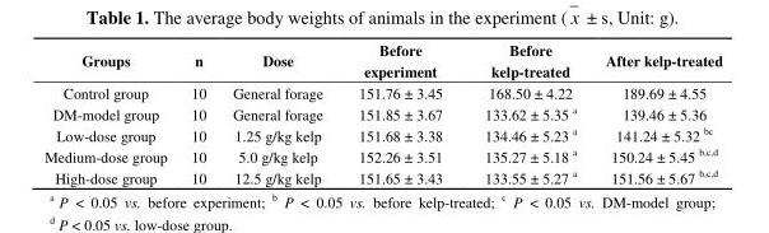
<table><thead><tr><td>Groups</td><td>n</td><td>Dose</td><td>Before experiment</td><td>Before kelp-treated</td><td>After kelp-treated</td></tr></thead><tbody><tr><td>Control group</td><td>10</td><td>General forage</td><td>151.76 ± 3.45</td><td>168.50 ± 4.22</td><td>189.69 ± 4.55</td></tr><tr><td>DM-model group</td><td>10</td><td>General forage</td><td>151.85 ± 3.67</td><td>133.62 ± 5.35 a</td><td>139.46 ± 5.36</td></tr><tr><td>Low-dose group</td><td>10</td><td>1.25 g/kg kelp</td><td>151.68 ± 3.38</td><td>134.46 ± 5.23 a</td><td>141.24 ± 5.32 bc</td></tr><tr><td>Medium-dose group</td><td>10</td><td>5.0 g/kg kelp</td><td>152.26 ± 3.51</td><td>135.27 ± 5.18 a</td><td>150.24 ± 5.45 b,c,d</td></tr><tr><td>High-dose group</td><td>10</td><td>12.5 g/kg kelp</td><td>151.65 ± 3.43</td><td>133.55 ± 5.27 a</td><td>151.56 ± 5.67 b,c,d</td></tr></tbody></table>